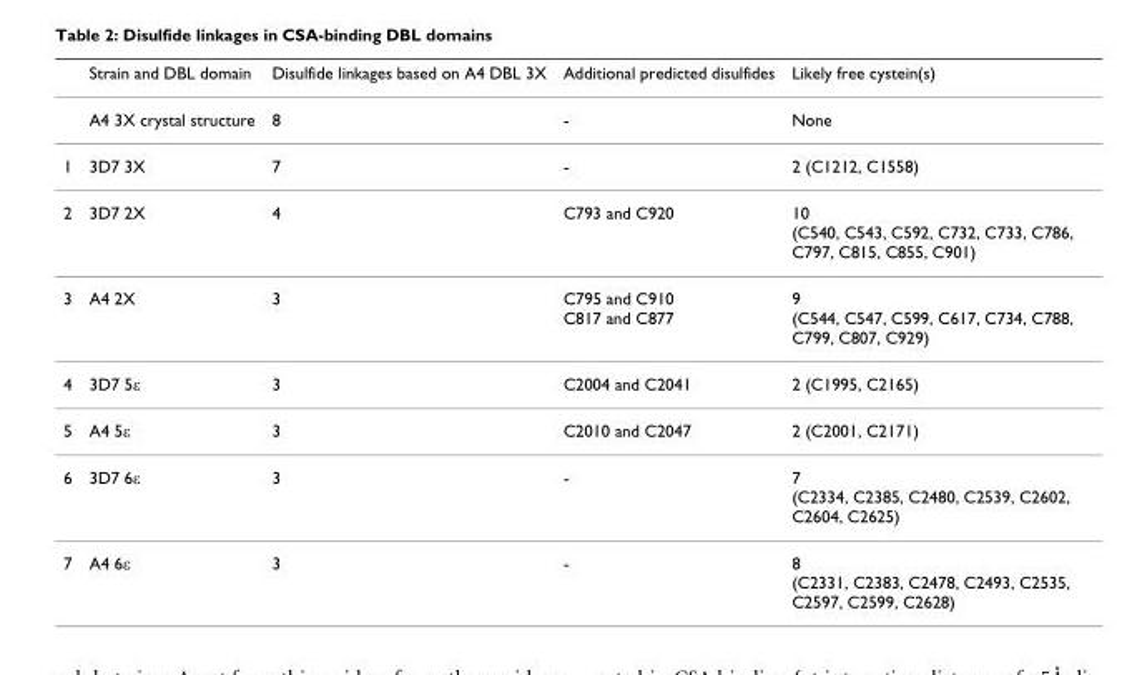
<table><thead><tr><td></td><td>Strain and DBL domain</td><td>Disulfide linkages based on A4 DBL 3X</td><td>Additional predicted disulfides</td><td>Likely free cystein(s)</td></tr></thead><tbody><tr><td></td><td>A4 3X crystal structure</td><td>8</td><td>-</td><td>None</td></tr><tr><td>1</td><td>3D7 3X</td><td>7</td><td>-</td><td>2 (C1212, C1558)</td></tr><tr><td>2</td><td>3D7 2X</td><td>4</td><td>C793 and C920</td><td>10 (C540, C543, C592, C732, C733, C786, C797, C815, C855, C901)</td></tr><tr><td>3</td><td>A4 2X</td><td>3</td><td>C795 and C910 C817 and C877</td><td>9 (C544, C547, C599, C617, C734, C788, C799, C807, C929)</td></tr><tr><td>4</td><td>3D7 5ε</td><td>3</td><td>C2004 and C2041</td><td>2 (C1995, C2165)</td></tr><tr><td>5</td><td>A4 5ε</td><td>3</td><td>C2010 and C2047</td><td>2 (C2001, C2171)</td></tr><tr><td>6</td><td>3D7 6ε</td><td>3</td><td>-</td><td>7 (C2334, C2385, C2480, C2539, C2602, C2604, C2625)</td></tr><tr><td>7</td><td>A4 6ε</td><td>3</td><td>-</td><td>8 (C2331, C2383, C2478, C2493, C2535, C2597, C2599, C2628)</td></tr></tbody></table>